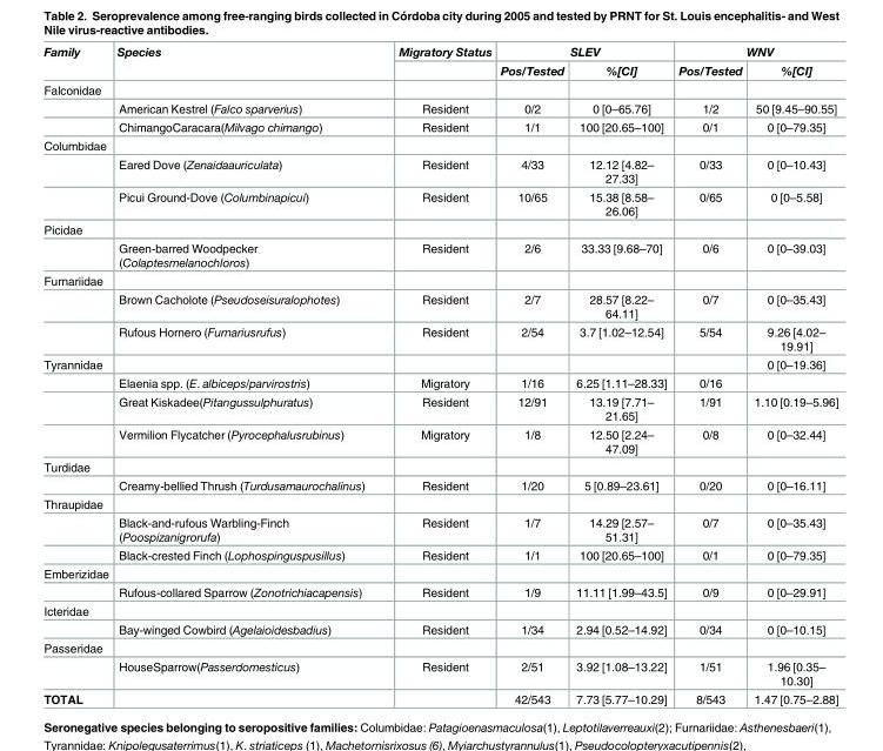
<table><thead><tr><td rowspan="2">Family</td><td rowspan="2">Species</td><td rowspan="2">Migratory Status</td><td colspan="2">SLEV</td><td colspan="2">WNV</td></tr><tr><td>Pos/Tested</td><td>%[CI]</td><td>Pos/Tested</td><td>%[CI]</td></tr></thead><tbody><tr><td colspan="7">Falconidae</td></tr><tr><td></td><td>American Kestrel (Falco sparverius)</td><td>Resident</td><td>0/2</td><td>0 [0–65.76]</td><td>1/2</td><td>50 [9.45–90.55]</td></tr><tr><td></td><td>ChimangoCaracara(Milvago chimango)</td><td>Resident</td><td>1/1</td><td>100 [20.65–100]</td><td>0/1</td><td>0 [0–79.35]</td></tr><tr><td colspan="7">Columbidae</td></tr><tr><td></td><td>Eared Dove (Zenaidaauriculata)</td><td>Resident</td><td>4/33</td><td>12.12 [4.82– 27.33]</td><td>0/33</td><td>0 [0–10.43]</td></tr><tr><td></td><td>Picui Ground-Dove (Columbinapicui)</td><td>Resident</td><td>10/65</td><td>15.38 [8.58– 26.06]</td><td>0/65</td><td>0 [0–5.58]</td></tr><tr><td colspan="7">Picidae</td></tr><tr><td></td><td>Green-barred Woodpecker (Colaptesmelanochloros)</td><td>Resident</td><td>2/6</td><td>33.33 [9.68–70]</td><td>0/6</td><td>0 [0–39.03]</td></tr><tr><td colspan="7">Furnariidae</td></tr><tr><td></td><td>Brown Cacholote (Pseudoseisuralophotes)</td><td>Resident</td><td>2/7</td><td>28.57 [8.22– 64.11]</td><td>0/7</td><td>0 [0–35.43]</td></tr><tr><td></td><td>Rufous Hornero (Furnariusrufus)</td><td>Resident</td><td>2/54</td><td>3.7 [1.02–12.54]</td><td>5/54</td><td>9.26 [4.02– 19.91]</td></tr><tr><td rowspan="4">Tyrannidae</td><td></td><td></td><td></td><td></td><td></td><td>0 [0–19.36]</td></tr><tr><td>Elaenia spp. (E. albiceps/parvirostris)</td><td>Migratory</td><td>1/16</td><td>6.25 [1.11–28.33]</td><td>0/16</td><td></td></tr><tr><td>Great Kiskadee(Pitangussulphuratus)</td><td>Resident</td><td>12/91</td><td>13.19 [7.71– 21.65]</td><td>1/91</td><td>1.10 [0.19–5.96]</td></tr><tr><td>Vermilion Flycatcher (Pyrocephalusrubinus)</td><td>Migratory</td><td>1/8</td><td>12.50 [2.24– 47.09]</td><td>0/8</td><td>0 [0–32.44]</td></tr><tr><td colspan="7">Turdidae</td></tr><tr><td></td><td>Creamy-bellied Thrush (Turdusamaurochalinus)</td><td>Resident</td><td>1/20</td><td>5 [0.89–23.61]</td><td>0/20</td><td>0 [0–16.11]</td></tr><tr><td colspan="7">Thraupidae</td></tr><tr><td></td><td>Black-and-rufous Warbling-Finch (Poospizanigrorufa)</td><td>Resident</td><td>1/7</td><td>14.29 [2.57– 51.31]</td><td>0/7</td><td>0 [0–35.43]</td></tr><tr><td></td><td>Black-crested Finch (Lophospinguspusillus)</td><td>Resident</td><td>1/1</td><td>100 [20.65–100]</td><td>0/1</td><td>0 [0–79.35]</td></tr><tr><td colspan="7">Emberizidae</td></tr><tr><td></td><td>Rufous-collared Sparrow (Zonotrichiacapensis)</td><td>Resident</td><td>1/9</td><td>11.11 [1.99–43.5]</td><td>0/9</td><td>0 [0–29.91]</td></tr><tr><td colspan="7">Icteridae</td></tr><tr><td></td><td>Bay-winged Cowbird (Agelaioidesbadius)</td><td>Resident</td><td>1/34</td><td>2.94 [0.52–14.92]</td><td>0/34</td><td>0 [0–10.15]</td></tr><tr><td colspan="7">Passeridae</td></tr><tr><td></td><td>HouseSparrow(Passerdomesticus)</td><td>Resident</td><td>2/51</td><td>3.92 [1.08–13.22]</td><td>1/51</td><td>1.96 [0.35– 10.30]</td></tr><tr><td>TOTAL</td><td></td><td></td><td>42/543</td><td>7.73 [5.77–10.29]</td><td>8/543</td><td>1.47 [0.75–2.88]</td></tr></tbody></table>